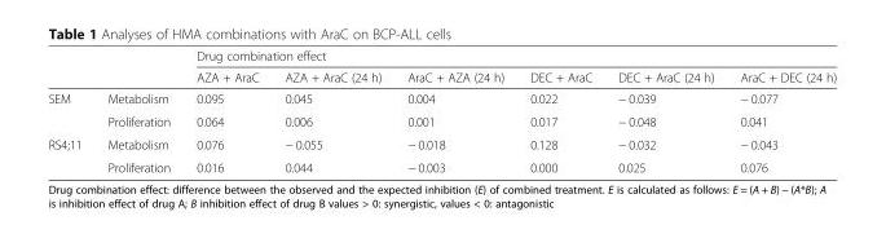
<table><thead><tr><td rowspan="2"></td><td rowspan="2"></td><td colspan="6">Drug combination effect</td></tr><tr><td>AZA + AraC</td><td>AZA + AraC (24 h)</td><td>AraC + AZA (24 h)</td><td>DEC + AraC</td><td>DEC + AraC (24 h)</td><td>AraC + DEC (24 h)</td></tr></thead><tbody><tr><td rowspan="2">SEM</td><td>Metabolism</td><td>0.095</td><td>0.045</td><td>0.004</td><td>0.022</td><td>− 0.039</td><td>− 0.077</td></tr><tr><td>Proliferation</td><td>0.064</td><td>0.006</td><td>0.001</td><td>0.017</td><td>− 0.048</td><td>0.041</td></tr><tr><td rowspan="2">RS4;11</td><td>Metabolism</td><td>0.076</td><td>− 0.055</td><td>− 0.018</td><td>0.128</td><td>− 0.032</td><td>− 0.043</td></tr><tr><td>Proliferation</td><td>0.016</td><td>0.044</td><td>− 0.003</td><td>0.000</td><td>0.025</td><td>0.076</td></tr></tbody></table>